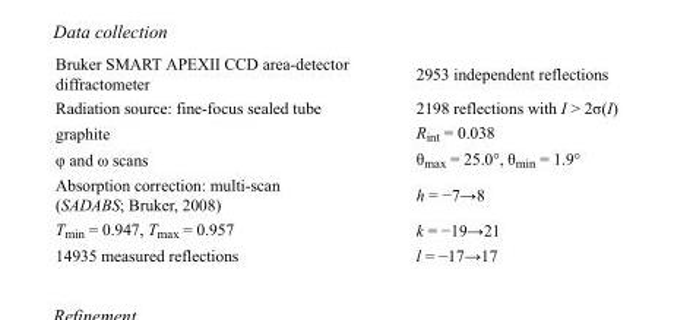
<table><tbody><tr><td>Bruker SMART APEXII CCD area-detector diffractometer</td><td>2953 independent reflections</td></tr><tr><td>Radiation source: fine-focus sealed tube</td><td>2198 reflections with I &gt; 2σ(I)</td></tr><tr><td>graphite</td><td>R<sub>int</sub> = 0.038</td></tr><tr><td>φ and ω scans</td><td>θ<sub>max</sub> = 25.0°, θ<sub>min</sub> = 1.9°</td></tr><tr><td>Absorption correction: multi-scan (SADABS; Bruker, 2008)</td><td>h = −7→8</td></tr><tr><td>T<sub>min</sub> = 0.947, T<sub>max</sub> = 0.957</td><td>k = −19→21</td></tr><tr><td>14935 measured reflections</td><td>l = −17→17</td></tr></tbody></table>